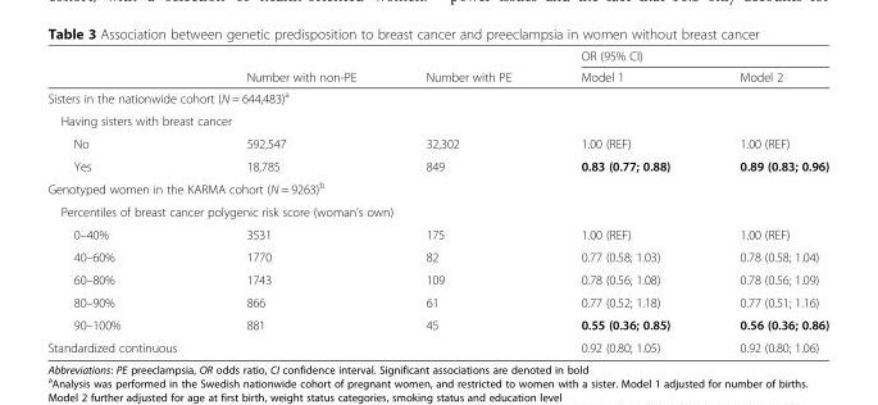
<table><thead><tr><td rowspan="2"></td><td rowspan="2">Number with non-PE</td><td rowspan="2">Number with PE</td><td colspan="2">OR (95% CI)</td></tr><tr><td>Model 1</td><td>Model 2</td></tr></thead><tbody><tr><td colspan="5">Sisters in the nationwide cohort (N = 644,483)<sup>a</sup></td></tr><tr><td colspan="5">Having sisters with breast cancer</td></tr><tr><td>No</td><td>592,547</td><td>32,302</td><td>1.00 (REF)</td><td>1.00 (REF)</td></tr><tr><td>Yes</td><td>18,785</td><td>849</td><td>0.83 (0.77; 0.88)</td><td>0.89 (0.83; 0.96)</td></tr><tr><td colspan="5">Genotyped women in the KARMA cohort (N = 9263)<sup>b</sup></td></tr><tr><td colspan="5">Percentiles of breast cancer polygenic risk score (woman’s own)</td></tr><tr><td>0–40%</td><td>3531</td><td>175</td><td>1.00 (REF)</td><td>1.00 (REF)</td></tr><tr><td>40–60%</td><td>1770</td><td>82</td><td>0.77 (0.58; 1.03)</td><td>0.78 (0.58; 1.04)</td></tr><tr><td>60–80%</td><td>1743</td><td>109</td><td>0.78 (0.56; 1.08)</td><td>0.78 (0.56; 1.09)</td></tr><tr><td>80–90%</td><td>866</td><td>61</td><td>0.77 (0.52; 1.18)</td><td>0.77 (0.51; 1.16)</td></tr><tr><td>90–100%</td><td>881</td><td>45</td><td>0.55 (0.36; 0.85)</td><td>0.56 (0.36; 0.86)</td></tr><tr><td>Standardized continuous</td><td></td><td></td><td>0.92 (0.80; 1.05)</td><td>0.92 (0.80; 1.06)</td></tr></tbody></table>